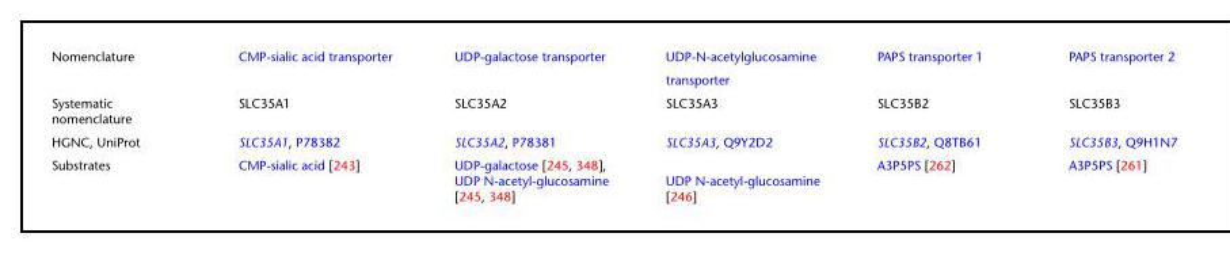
<table><tbody><tr><td rowspan="2">Nomenclature</td><td>CMP-sialic acid transporter</td><td>UDP-galactose transporter</td><td>UDP-N-acetylglucosamine</td><td>PAPS transporter 1</td><td>PAPS transporter 2</td></tr><tr><td></td><td></td><td>transporter</td><td></td><td></td></tr><tr><td>Systematic nomenclature</td><td>SLC35A1</td><td>SLC35A2</td><td>SLC35A3</td><td>SLC35B2</td><td>SLC35B3</td></tr><tr><td>HGNC, UniProt</td><td>SLC35A1, P78382</td><td>SLC35A2, P78381</td><td>SLC35A3, Q9Y2D2</td><td>SLC35B2, Q8TB61</td><td>SLC35B3, Q9H1N7</td></tr><tr><td>Substrates</td><td>CMP-sialic acid [243]</td><td>UDP-galactose [245, 348], UDP N-acetyl-glucosamine [245, 348]</td><td>UDP N-acetyl-glucosamine [246]</td><td>A3P5PS [262]</td><td>A3P5PS [261]</td></tr></tbody></table>